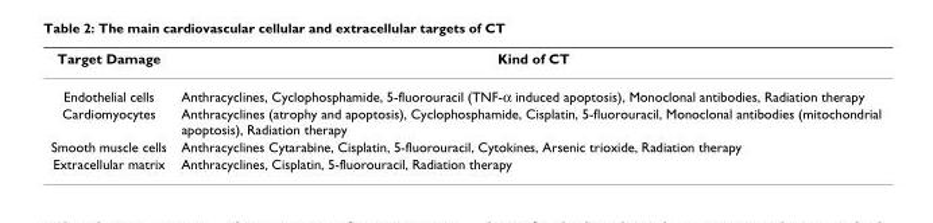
<table><thead><tr><td>Target Damage</td><td>Kind of CT</td></tr></thead><tbody><tr><td>Endothelial cells</td><td>Anthracyclines, Cyclophosphamide, 5-fluorouracil (TNF-α induced apoptosis), Monoclonal antibodies, Radiation therapy</td></tr><tr><td>Cardiomyocytes</td><td>Anthracyclines (atrophy and apoptosis), Cyclophosphamide, Cisplatin, 5-fluorouracil, Monoclonal antibodies (mitochondrial apoptosis), Radiation therapy</td></tr><tr><td>Smooth muscle cells</td><td>Anthracyclines Cytarabine, Cisplatin, 5-fluorouracil, Cytokines, Arsenic trioxide, Radiation therapy</td></tr><tr><td>Extracellular matrix</td><td>Anthracyclines, Cisplatin, 5-fluorouracil, Radiation therapy</td></tr></tbody></table>